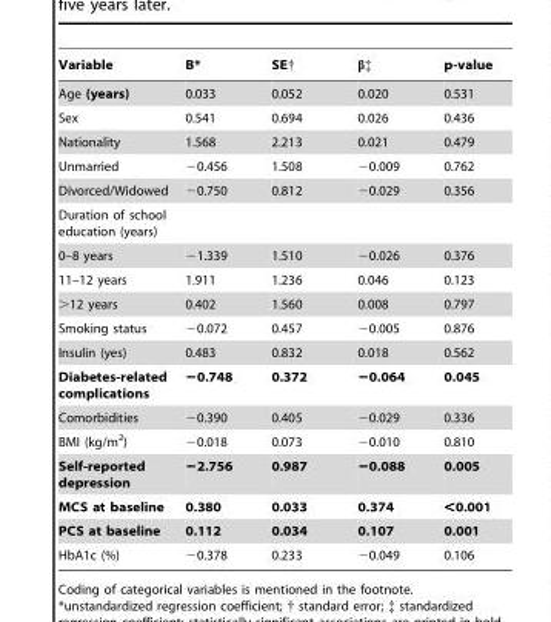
<table><thead><tr><td>Variable</td><td>B*</td><td>SE†</td><td>β‡</td><td>p-value</td></tr></thead><tbody><tr><td>Age (years)</td><td>0.033</td><td>0.052</td><td>0.020</td><td>0.531</td></tr><tr><td>Sex</td><td>0.541</td><td>0.694</td><td>0.026</td><td>0.436</td></tr><tr><td>Nationality</td><td>1.568</td><td>2.213</td><td>0.021</td><td>0.479</td></tr><tr><td>Unmarried</td><td>−0.456</td><td>1.508</td><td>−0.009</td><td>0.762</td></tr><tr><td>Divorced/Widowed</td><td>−0.750</td><td>0.812</td><td>−0.029</td><td>0.356</td></tr><tr><td colspan="5">Duration of school education (years)</td></tr><tr><td>0–8 years</td><td>−1.339</td><td>1.510</td><td>−0.026</td><td>0.376</td></tr><tr><td>11–12 years</td><td>1.911</td><td>1.236</td><td>0.046</td><td>0.123</td></tr><tr><td>&gt;12 years</td><td>0.402</td><td>1.560</td><td>0.008</td><td>0.797</td></tr><tr><td>Smoking status</td><td>−0.072</td><td>0.457</td><td>−0.005</td><td>0.876</td></tr><tr><td>Insulin (yes)</td><td>0.483</td><td>0.832</td><td>0.018</td><td>0.562</td></tr><tr><td>Diabetes-related complications</td><td>−0.748</td><td>0.372</td><td>−0.064</td><td>0.045</td></tr><tr><td>Comorbidities</td><td>−0.390</td><td>0.405</td><td>−0.029</td><td>0.336</td></tr><tr><td>BMI (kg/m<sup>2</sup>)</td><td>−0.018</td><td>0.073</td><td>−0.010</td><td>0.810</td></tr><tr><td>Self-reported depression</td><td>−2.756</td><td>0.987</td><td>−0.088</td><td>0.005</td></tr><tr><td>MCS at baseline</td><td>0.380</td><td>0.033</td><td>0.374</td><td>&lt;0.001</td></tr><tr><td>PCS at baseline</td><td>0.112</td><td>0.034</td><td>0.107</td><td>0.001</td></tr><tr><td>HbA1c (%)</td><td>−0.378</td><td>0.233</td><td>−0.049</td><td>0.106</td></tr></tbody></table>